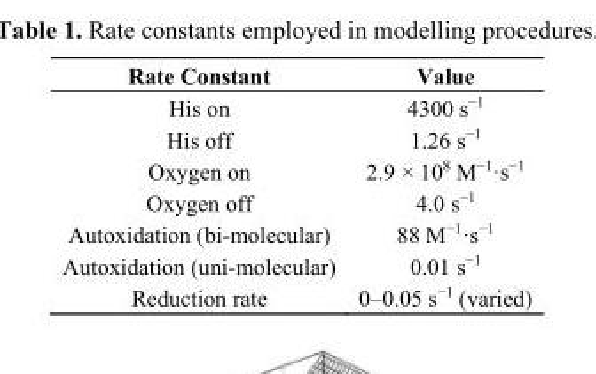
<table><thead><tr><td>Rate Constant</td><td>Value</td></tr></thead><tbody><tr><td>His on</td><td>4300 s<sup>−1</sup></td></tr><tr><td>His off</td><td>1.26 s<sup>−1</sup></td></tr><tr><td>Oxygen on</td><td>2.9 × 10<sup>8</sup> M<sup>−1</sup>·s<sup>−1</sup></td></tr><tr><td>Oxygen off</td><td>4.0 s<sup>−1</sup></td></tr><tr><td>Autoxidation (bi-molecular)</td><td>88 M<sup>−1</sup>·s<sup>−1</sup></td></tr><tr><td>Autoxidation (uni-molecular)</td><td>0.01 s<sup>−1</sup></td></tr><tr><td>Reduction rate</td><td>0–0.05 s<sup>−1</sup> (varied)</td></tr></tbody></table>